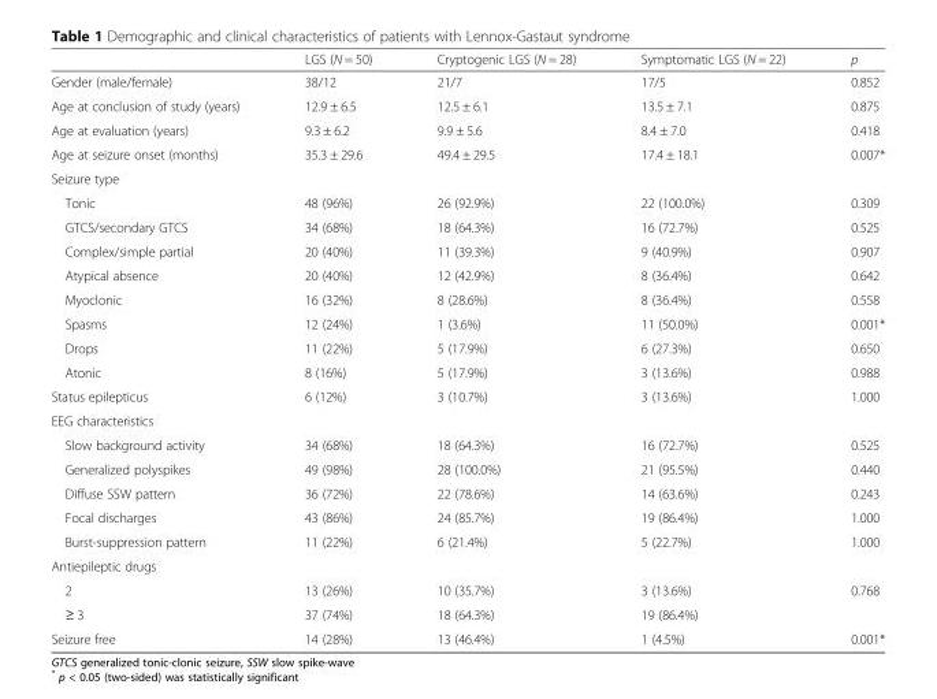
<table><thead><tr><td></td><td>LGS (N = 50)</td><td>Cryptogenic LGS (N = 28)</td><td>Symptomatic LGS (N = 22)</td><td>p</td></tr></thead><tbody><tr><td>Gender (male/female)</td><td>38/12</td><td>21/7</td><td>17/5</td><td>0.852</td></tr><tr><td>Age at conclusion of study (years)</td><td>12.9 ± 6.5</td><td>12.5 ± 6.1</td><td>13.5 ± 7.1</td><td>0.875</td></tr><tr><td>Age at evaluation (years)</td><td>9.3 ± 6.2</td><td>9.9 ± 5.6</td><td>8.4 ± 7.0</td><td>0.418</td></tr><tr><td>Age at seizure onset (months)</td><td>35.3 ± 29.6</td><td>49.4 ± 29.5</td><td>17.4 ± 18.1</td><td>0.007*</td></tr><tr><td colspan="5">Seizure type</td></tr><tr><td>Tonic</td><td>48 (96%)</td><td>26 (92.9%)</td><td>22 (100.0%)</td><td>0.309</td></tr><tr><td>GTCS/secondary GTCS</td><td>34 (68%)</td><td>18 (64.3%)</td><td>16 (72.7%)</td><td>0.525</td></tr><tr><td>Complex/simple partial</td><td>20 (40%)</td><td>11 (39.3%)</td><td>9 (40.9%)</td><td>0.907</td></tr><tr><td>Atypical absence</td><td>20 (40%)</td><td>12 (42.9%)</td><td>8 (36.4%)</td><td>0.642</td></tr><tr><td>Myoclonic</td><td>16 (32%)</td><td>8 (28.6%)</td><td>8 (36.4%)</td><td>0.558</td></tr><tr><td>Spasms</td><td>12 (24%)</td><td>1 (3.6%)</td><td>11 (50.0%)</td><td>0.001*</td></tr><tr><td>Drops</td><td>11 (22%)</td><td>5 (17.9%)</td><td>6 (27.3%)</td><td>0.650</td></tr><tr><td>Atonic</td><td>8 (16%)</td><td>5 (17.9%)</td><td>3 (13.6%)</td><td>0.988</td></tr><tr><td>Status epilepticus</td><td>6 (12%)</td><td>3 (10.7%)</td><td>3 (13.6%)</td><td>1.000</td></tr><tr><td colspan="5">EEG characteristics</td></tr><tr><td>Slow background activity</td><td>34 (68%)</td><td>18 (64.3%)</td><td>16 (72.7%)</td><td>0.525</td></tr><tr><td>Generalized polyspikes</td><td>49 (98%)</td><td>28 (100.0%)</td><td>21 (95.5%)</td><td>0.440</td></tr><tr><td>Diffuse SSW pattern</td><td>36 (72%)</td><td>22 (78.6%)</td><td>14 (63.6%)</td><td>0.243</td></tr><tr><td>Focal discharges</td><td>43 (86%)</td><td>24 (85.7%)</td><td>19 (86.4%)</td><td>1.000</td></tr><tr><td>Burst-suppression pattern</td><td>11 (22%)</td><td>6 (21.4%)</td><td>5 (22.7%)</td><td>1.000</td></tr><tr><td colspan="5">Antiepileptic drugs</td></tr><tr><td>2</td><td>13 (26%)</td><td>10 (35.7%)</td><td>3 (13.6%)</td><td>0.768</td></tr><tr><td>≥ 3</td><td>37 (74%)</td><td>18 (64.3%)</td><td>19 (86.4%)</td><td></td></tr><tr><td>Seizure free</td><td>14 (28%)</td><td>13 (46.4%)</td><td>1 (4.5%)</td><td>0.001*</td></tr></tbody></table>